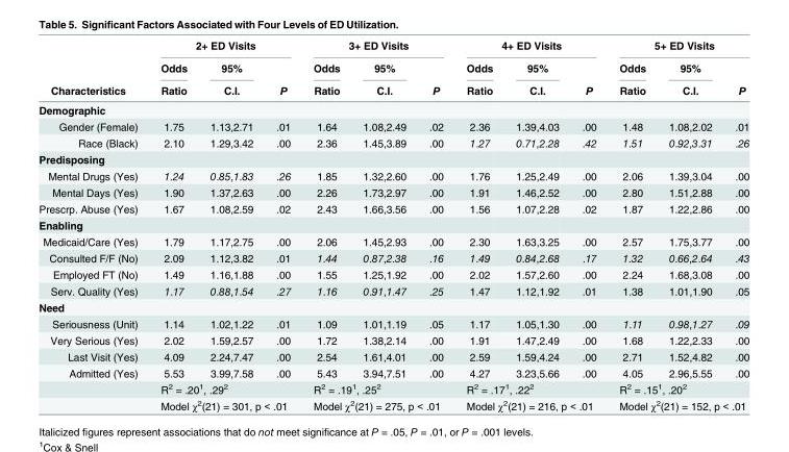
<table><thead><tr><td rowspan="3">Characteristics</td><td colspan="3">2+ ED Visits</td><td colspan="3">3+ ED Visits</td><td colspan="3">4+ ED Visits</td><td colspan="3">5+ ED Visits</td></tr><tr><td rowspan="2">Odds Ratio</td><td rowspan="2">95% C.I.</td><td rowspan="2">P</td><td rowspan="2">Odds Ratio</td><td rowspan="2">95% C.I.</td><td rowspan="2">P</td><td rowspan="2">Odds Ratio</td><td rowspan="2">95% C.I.</td><td rowspan="2">P</td><td rowspan="2">Odds Ratio</td><td rowspan="2">95% C.I.</td><td rowspan="2">P</td></tr><tr></tr></thead><tbody><tr><td colspan="13">Demographic</td></tr><tr><td>Gender (Female)</td><td>1.75</td><td>1.13,2.71</td><td>.01</td><td>1.64</td><td>1.08,2.49</td><td>.02</td><td>2.36</td><td>1.39,4.03</td><td>.00</td><td>1.48</td><td>1.08,2.02</td><td>.01</td></tr><tr><td>Race (Black)</td><td>2.10</td><td>1.29,3.42</td><td>.00</td><td>2.36</td><td>1.45,3.89</td><td>.00</td><td>1.27</td><td>0.71,2.28</td><td>.42</td><td>1.51</td><td>0.92,3.31</td><td>.26</td></tr><tr><td colspan="13">Predisposing</td></tr><tr><td>Mental Drugs (Yes)</td><td>1.24</td><td>0.85,1.83</td><td>.26</td><td>1.85</td><td>1.32,2.60</td><td>.00</td><td>1.76</td><td>1.25,2.49</td><td>.00</td><td>2.06</td><td>1.39,3.04</td><td>.00</td></tr><tr><td>Mental Days (Yes)</td><td>1.90</td><td>1.37,2.63</td><td>.00</td><td>2.26</td><td>1.73,2.97</td><td>.00</td><td>1.91</td><td>1.46,2.52</td><td>.00</td><td>2.80</td><td>1.51,2.88</td><td>.00</td></tr><tr><td>Prescrp. Abuse (Yes)</td><td>1.67</td><td>1.08,2.59</td><td>.02</td><td>2.43</td><td>1.66,3.56</td><td>.00</td><td>1.56</td><td>1.07,2.28</td><td>.02</td><td>1.87</td><td>1.22,2.86</td><td>.00</td></tr><tr><td colspan="13">Enabling</td></tr><tr><td>Medicaid/Care (Yes)</td><td>1.79</td><td>1.17,2.75</td><td>.00</td><td>2.06</td><td>1.45,2.93</td><td>.00</td><td>2.30</td><td>1.63,3.25</td><td>.00</td><td>2.57</td><td>1.75,3.77</td><td>.00</td></tr><tr><td>Consulted F/F (No)</td><td>2.09</td><td>1.12,3.82</td><td>.01</td><td>1.44</td><td>0.87,2.38</td><td>.16</td><td>1.49</td><td>0.84,2.68</td><td>.17</td><td>1.32</td><td>0.66,2.64</td><td>.43</td></tr><tr><td>Employed FT (No)</td><td>1.49</td><td>1.16,1.88</td><td>.00</td><td>1.55</td><td>1.25,1.92</td><td>.00</td><td>2.02</td><td>1.57,2.60</td><td>.00</td><td>2.24</td><td>1.68,3.08</td><td>.00</td></tr><tr><td>Serv. Quality (Yes)</td><td>1.17</td><td>0.88,1.54</td><td>.27</td><td>1.16</td><td>0.91,1.47</td><td>.25</td><td>1.47</td><td>1.12,1.92</td><td>.01</td><td>1.38</td><td>1.01,1.90</td><td>.05</td></tr><tr><td colspan="13">Need</td></tr><tr><td>Seriousness (Unit)</td><td>1.14</td><td>1.02,1.22</td><td>.01</td><td>1.09</td><td>1.01,1.19</td><td>.05</td><td>1.17</td><td>1.05,1.30</td><td>.00</td><td>1.11</td><td>0.98,1.27</td><td>.09</td></tr><tr><td>Very Serious (Yes)</td><td>2.02</td><td>1.59,2.57</td><td>.00</td><td>1.72</td><td>1.38,2.14</td><td>.00</td><td>1.91</td><td>1.47,2.49</td><td>.00</td><td>1.68</td><td>1.22,2.33</td><td>.00</td></tr><tr><td>Last Visit (Yes)</td><td>4.09</td><td>2.24,7.47</td><td>.00</td><td>2.54</td><td>1.61,4.01</td><td>.00</td><td>2.59</td><td>1.59,4.24</td><td>.00</td><td>2.71</td><td>1.52,4.82</td><td>.00</td></tr><tr><td rowspan="3">Admitted (Yes)</td><td>5.53</td><td>3.99,7.58</td><td>.00</td><td>5.43</td><td>3.94,7.51</td><td>.00</td><td>4.27</td><td>3.23,5.66</td><td>.00</td><td>4.05</td><td>2.96,5.55</td><td>.00</td></tr><tr><td colspan="3">R<sup>2</sup> = .20<sup>1</sup>, .29<sup>2</sup></td><td colspan="3">R<sup>2</sup> = .19<sup>1</sup>, .25<sup>2</sup></td><td colspan="3">R<sup>2</sup> = .17<sup>1</sup>, .22<sup>2</sup></td><td colspan="3">R<sup>2</sup> = .15<sup>1</sup>, .20<sup>2</sup></td></tr><tr><td colspan="3">Model χ<sup>2</sup>(21) = 301, p &lt; .01</td><td colspan="3">Model χ<sup>2</sup>(21) = 275, p &lt; .01</td><td colspan="3">Model χ<sup>2</sup>(21) = 216, p &lt; .01</td><td colspan="3">Model χ<sup>2</sup>(21) = 152, p &lt; .01</td></tr></tbody></table>